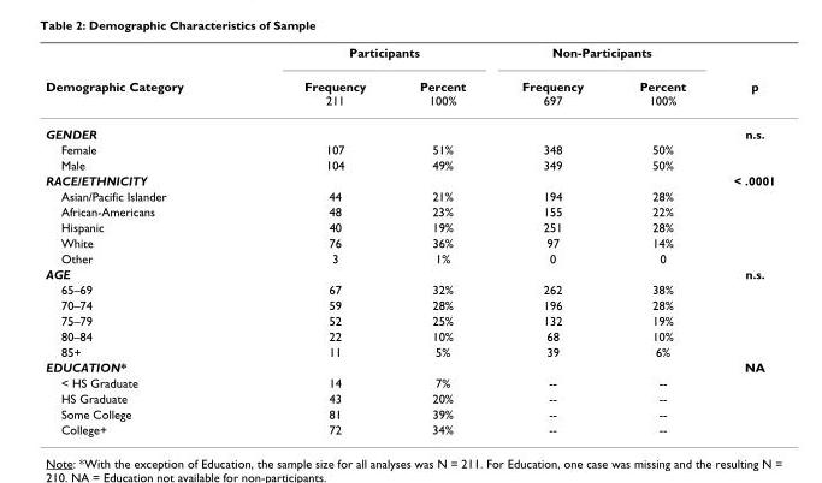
<table><thead><tr><td rowspan="2">Demographic Category</td><td colspan="2">Participants</td><td colspan="2">Non-Participants</td><td rowspan="2">p</td></tr><tr><td>Frequency 211</td><td>Percent 100%</td><td>Frequency 697</td><td>Percent 100%</td></tr></thead><tbody><tr><td>GENDER</td><td></td><td></td><td></td><td></td><td>n.s.</td></tr><tr><td>Female</td><td>107</td><td>51%</td><td>348</td><td>50%</td><td></td></tr><tr><td>Male</td><td>104</td><td>49%</td><td>349</td><td>50%</td><td></td></tr><tr><td>RACE/ETHNICITY</td><td></td><td></td><td></td><td></td><td>&lt; .0001</td></tr><tr><td>Asian/Pacific Islander</td><td>44</td><td>21%</td><td>194</td><td>28%</td><td></td></tr><tr><td>African-Americans</td><td>48</td><td>23%</td><td>155</td><td>22%</td><td></td></tr><tr><td>Hispanic</td><td>40</td><td>19%</td><td>251</td><td>28%</td><td></td></tr><tr><td>White</td><td>76</td><td>36%</td><td>97</td><td>14%</td><td></td></tr><tr><td>Other</td><td>3</td><td>1%</td><td>0</td><td>0</td><td></td></tr><tr><td>AGE</td><td></td><td></td><td></td><td></td><td>n.s.</td></tr><tr><td>65–69</td><td>67</td><td>32%</td><td>262</td><td>38%</td><td></td></tr><tr><td>70–74</td><td>59</td><td>28%</td><td>196</td><td>28%</td><td></td></tr><tr><td>75–79</td><td>52</td><td>25%</td><td>132</td><td>19%</td><td></td></tr><tr><td>80–84</td><td>22</td><td>10%</td><td>68</td><td>10%</td><td></td></tr><tr><td>85+</td><td>11</td><td>5%</td><td>39</td><td>6%</td><td></td></tr><tr><td>EDUCATION*</td><td></td><td></td><td></td><td></td><td>NA</td></tr><tr><td>&lt; HS Graduate</td><td>14</td><td>7%</td><td>--</td><td>--</td><td></td></tr><tr><td>HS Graduate</td><td>43</td><td>20%</td><td>--</td><td>--</td><td></td></tr><tr><td>Some College</td><td>81</td><td>39%</td><td>--</td><td>--</td><td></td></tr><tr><td>College+</td><td>72</td><td>34%</td><td>--</td><td>--</td><td></td></tr></tbody></table>